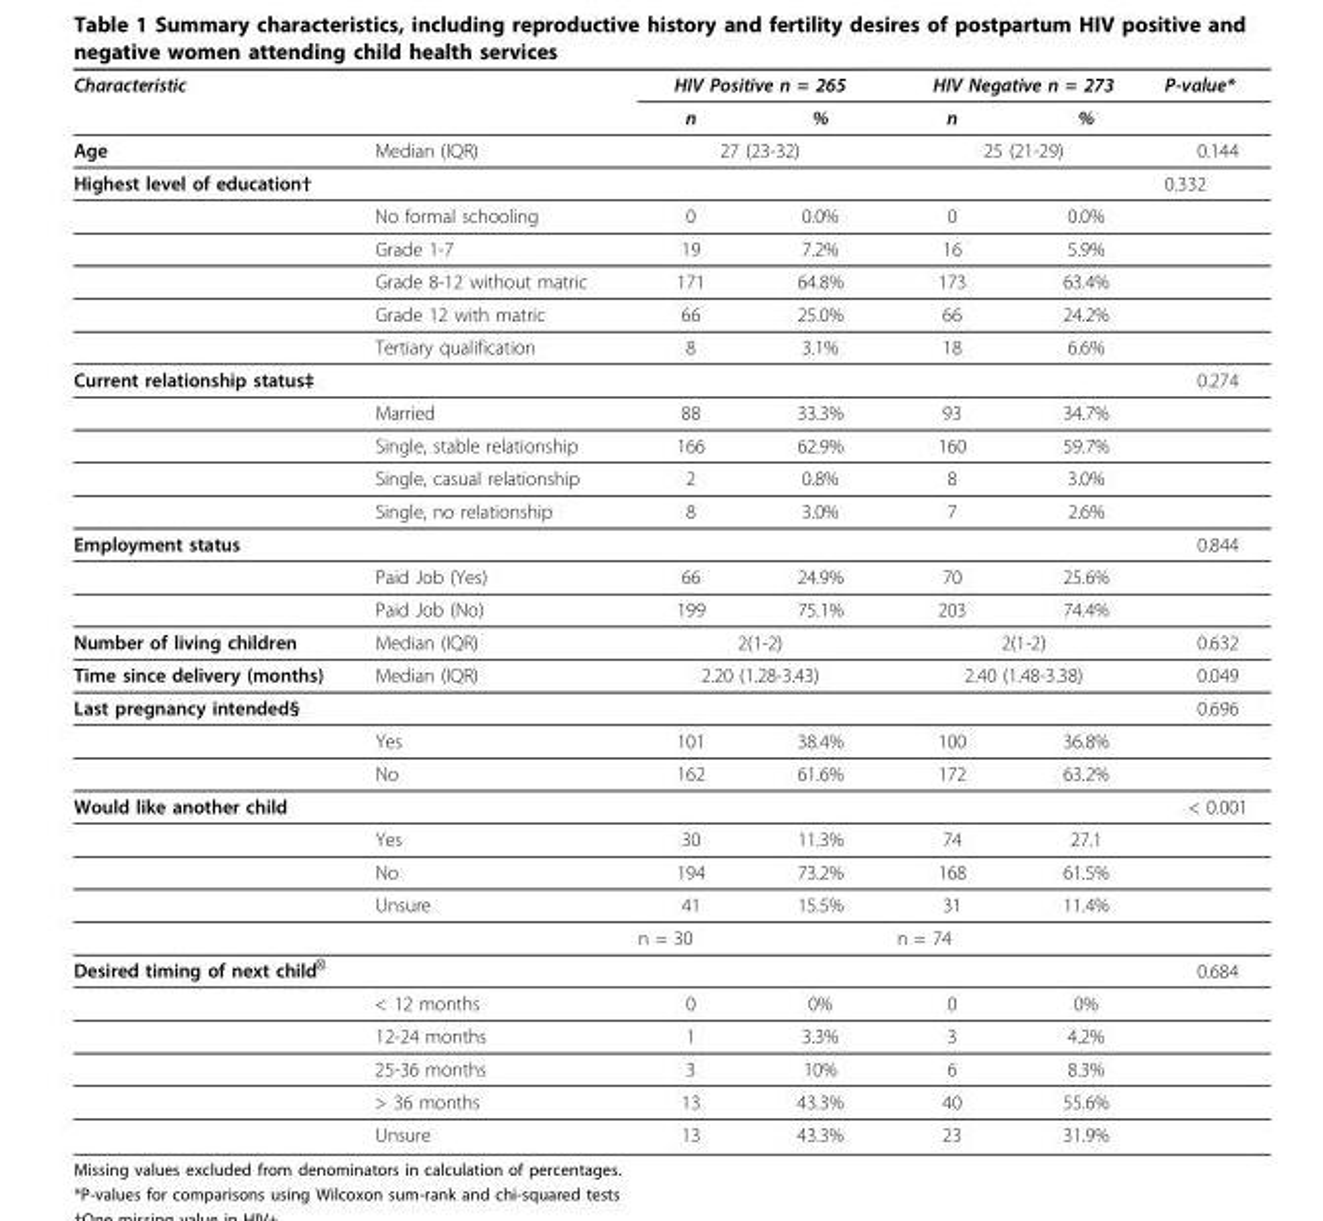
<table><thead><tr><td colspan="2">Characteristic</td><td colspan="2">HIV Positive n = 265</td><td colspan="2">HIV Negative n = 273</td><td rowspan="2">P-value*</td></tr><tr><td></td><td></td><td>n</td><td>%</td><td>n</td><td>%</td></tr></thead><tbody><tr><td>Age</td><td>Median (IQR)</td><td colspan="2">27 (23-32)</td><td colspan="2">25 (21-29)</td><td>0.144</td></tr><tr><td rowspan="6">Highest level of education†</td><td></td><td></td><td></td><td></td><td></td><td>0.332</td></tr><tr><td>No formal schooling</td><td>0</td><td>0.0%</td><td>0</td><td>0.0%</td><td></td></tr><tr><td>Grade 1-7</td><td>19</td><td>7.2%</td><td>16</td><td>5.9%</td><td></td></tr><tr><td>Grade 8-12 without matric</td><td>171</td><td>64.8%</td><td>173</td><td>63.4%</td><td></td></tr><tr><td>Grade 12 with matric</td><td>66</td><td>25.0%</td><td>66</td><td>24.2%</td><td></td></tr><tr><td>Tertiary qualification</td><td>8</td><td>3.1%</td><td>18</td><td>6.6%</td><td></td></tr><tr><td colspan="2">Current relationship status‡</td><td></td><td></td><td></td><td></td><td>0.274</td></tr><tr><td></td><td>Married</td><td>88</td><td>33.3%</td><td>93</td><td>34.7%</td><td></td></tr><tr><td></td><td>Single, stable relationship</td><td>166</td><td>62.9%</td><td>160</td><td>59.7%</td><td></td></tr><tr><td></td><td>Single, casual relationship</td><td>2</td><td>0.8%</td><td>8</td><td>3.0%</td><td></td></tr><tr><td></td><td>Single, no relationship</td><td>8</td><td>3.0%</td><td>7</td><td>2.6%</td><td></td></tr><tr><td rowspan="3">Employment status</td><td></td><td></td><td></td><td></td><td></td><td>0.844</td></tr><tr><td>Paid Job (Yes)</td><td>66</td><td>24.9%</td><td>70</td><td>25.6%</td><td></td></tr><tr><td>Paid Job (No)</td><td>199</td><td>75.1%</td><td>203</td><td>74.4%</td><td></td></tr><tr><td>Number of living children</td><td>Median (IQR)</td><td colspan="2">2(1-2)</td><td colspan="2">2(1-2)</td><td>0.632</td></tr><tr><td>Time since delivery (months)</td><td>Median (IQR)</td><td colspan="2">2.20 (1.28-3.43)</td><td colspan="2">2.40 (1.48-3.38)</td><td>0.049</td></tr><tr><td rowspan="3">Last pregnancy intended§</td><td></td><td></td><td></td><td></td><td></td><td>0.696</td></tr><tr><td>Yes</td><td>101</td><td>38.4%</td><td>100</td><td>36.8%</td><td></td></tr><tr><td>No</td><td>162</td><td>61.6%</td><td>172</td><td>63.2%</td><td></td></tr><tr><td rowspan="5">Would like another child</td><td></td><td></td><td></td><td></td><td></td><td>&lt; 0.001</td></tr><tr><td>Yes</td><td>30</td><td>11.3%</td><td>74</td><td>27.1</td><td></td></tr><tr><td>No</td><td>194</td><td>73.2%</td><td>168</td><td>61.5%</td><td></td></tr><tr><td>Unsure</td><td>41</td><td>15.5%</td><td>31</td><td>11.4%</td><td></td></tr><tr><td></td><td colspan="2">n = 30</td><td colspan="2">n = 74</td><td></td></tr><tr><td rowspan="6">Desired timing of next child<sup>ǁ</sup></td><td></td><td></td><td></td><td></td><td></td><td>0.684</td></tr><tr><td>&lt; 12 months</td><td>0</td><td>0%</td><td>0</td><td>0%</td><td></td></tr><tr><td>12-24 months</td><td>1</td><td>3.3%</td><td>3</td><td>4.2%</td><td></td></tr><tr><td>25-36 months</td><td>3</td><td>10%</td><td>6</td><td>8.3%</td><td></td></tr><tr><td>&gt; 36 months</td><td>13</td><td>43.3%</td><td>40</td><td>55.6%</td><td></td></tr><tr><td>Unsure</td><td>13</td><td>43.3%</td><td>23</td><td>31.9%</td><td></td></tr></tbody></table>